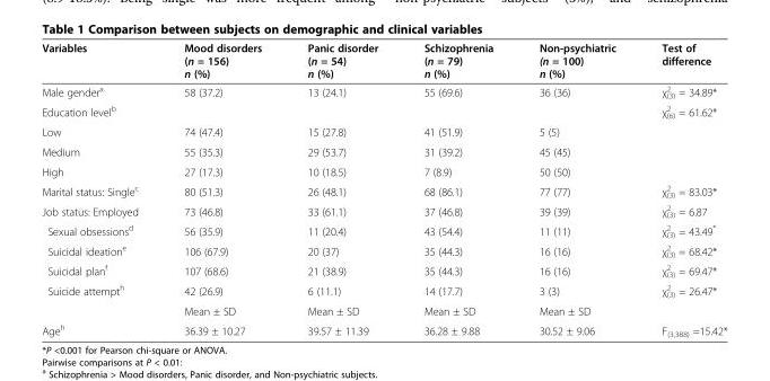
<table><thead><tr><td>Variables</td><td>Mood disorders (n = 156) n (%)</td><td>Panic disorder (n = 54) n (%)</td><td>Schizophrenia (n = 79) n (%)</td><td>Non-psychiatric (n = 100) n (%)</td><td>Test of difference</td></tr></thead><tbody><tr><td>Male gender<sup>a</sup></td><td>58 (37.2)</td><td>13 (24.1)</td><td>55 (69.6)</td><td>36 (36)</td><td>χ<sup>2</sup> <sub>(3)</sub> = 34.89*</td></tr><tr><td>Education level<sup>b</sup></td><td></td><td></td><td></td><td></td><td>χ<sup>2</sup> <sub>(6)</sub> = 61.62*</td></tr><tr><td>Low</td><td>74 (47.4)</td><td>15 (27.8)</td><td>41 (51.9)</td><td>5 (5)</td><td></td></tr><tr><td>Medium</td><td>55 (35.3)</td><td>29 (53.7)</td><td>31 (39.2)</td><td>45 (45)</td><td></td></tr><tr><td>High</td><td>27 (17.3)</td><td>10 (18.5)</td><td>7 (8.9)</td><td>50 (50)</td><td></td></tr><tr><td>Marital status: Single<sup>c</sup></td><td>80 (51.3)</td><td>26 (48.1)</td><td>68 (86.1)</td><td>77 (77)</td><td>χ<sup>2</sup> <sub>(3)</sub> = 83.03*</td></tr><tr><td>Job status: Employed</td><td>73 (46.8)</td><td>33 (61.1)</td><td>37 (46.8)</td><td>39 (39)</td><td>χ<sup>2</sup> <sub>(3)</sub> = 6.87</td></tr><tr><td>Sexual obsessions<sup>d</sup></td><td>56 (35.9)</td><td>11 (20.4)</td><td>43 (54.4)</td><td>11 (11)</td><td>χ<sup>2</sup> <sub>(3)</sub> = 43.49*</td></tr><tr><td>Suicidal ideation<sup>e</sup></td><td>106 (67.9)</td><td>20 (37)</td><td>35 (44.3)</td><td>16 (16)</td><td>χ<sup>2</sup> <sub>(3)</sub> = 68.42*</td></tr><tr><td>Suicidal plan<sup>f</sup></td><td>107 (68.6)</td><td>21 (38.9)</td><td>35 (44.3)</td><td>16 (16)</td><td>χ<sup>2</sup> <sub>(3)</sub> = 69.47*</td></tr><tr><td rowspan="2">Suicide attempt<sup>h</sup></td><td>42 (26.9)</td><td>6 (11.1)</td><td>14 (17.7)</td><td>3 (3)</td><td>χ<sup>2</sup> <sub>(3)</sub> = 26.47*</td></tr><tr><td>Mean ± SD</td><td>Mean ± SD</td><td>Mean ± SD</td><td>Mean ± SD</td><td></td></tr><tr><td>Age<sup>h</sup></td><td>36.39 ± 10.27</td><td>39.57 ± 11.39</td><td>36.28 ± 9.88</td><td>30.52 ± 9.06</td><td>F<sub>(3,388)</sub> =15.42*</td></tr></tbody></table>